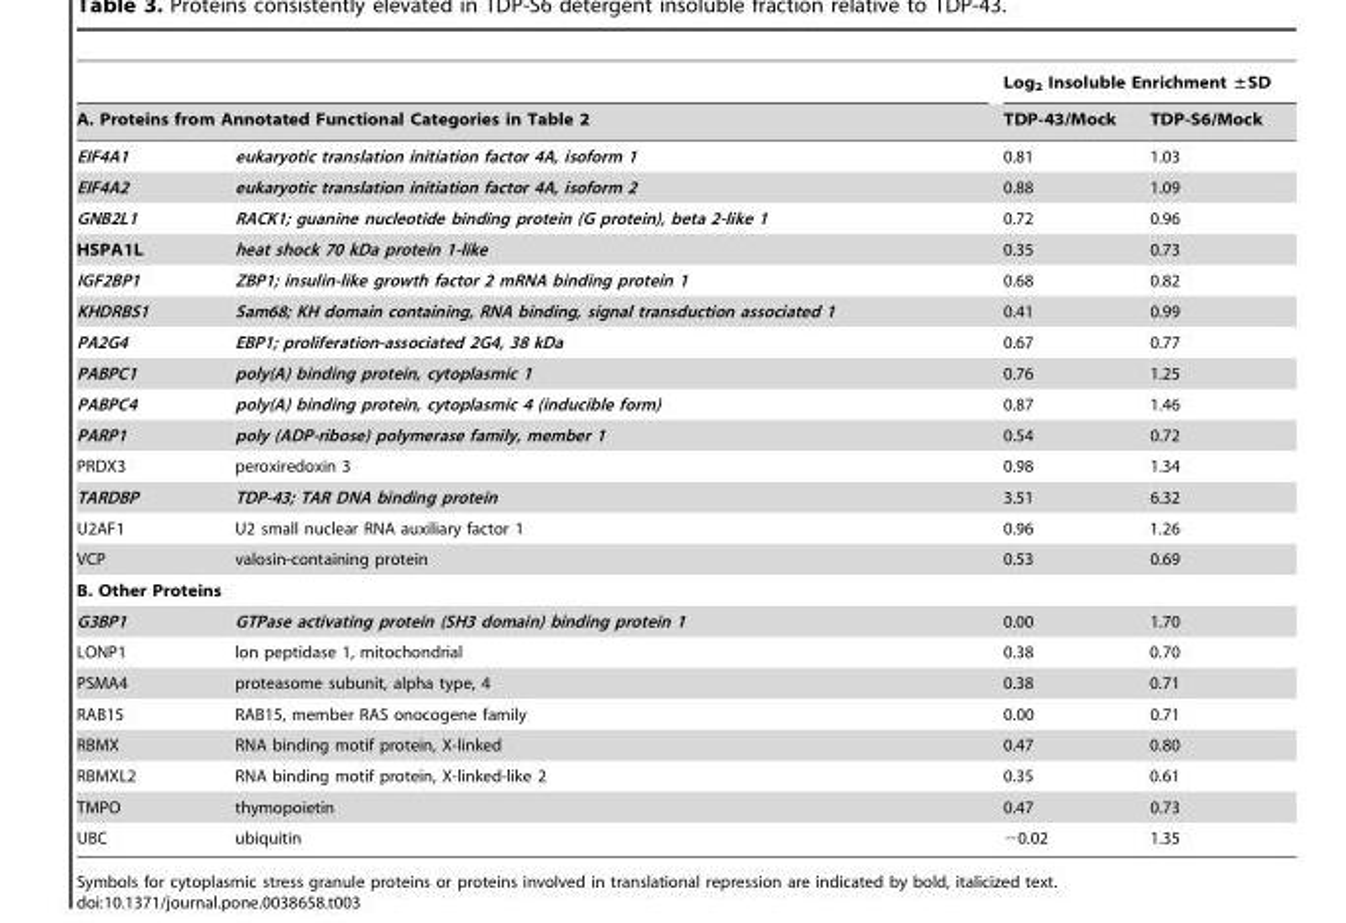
<table><thead><tr><td></td><td></td><td colspan="2">Log<sub>2</sub> Insoluble Enrichment ±SD</td></tr><tr><td colspan="2">A. Proteins from Annotated Functional Categories in Table 2</td><td>TDP-43/Mock</td><td>TDP-S6/Mock</td></tr></thead><tbody><tr><td>EIF4A1</td><td>eukaryotic translation initiation factor 4A, isoform 1</td><td>0.81</td><td>1.03</td></tr><tr><td>EIF4A2</td><td>eukaryotic translation initiation factor 4A, isoform 2</td><td>0.88</td><td>1.09</td></tr><tr><td>GNB2L1</td><td>RACK1; guanine nucleotide binding protein (G protein), beta 2-like 1</td><td>0.72</td><td>0.96</td></tr><tr><td>HSPA1L</td><td>heat shock 70 kDa protein 1-like</td><td>0.35</td><td>0.73</td></tr><tr><td>IGF2BP1</td><td>ZBP1; insulin-like growth factor 2 mRNA binding protein 1</td><td>0.68</td><td>0.82</td></tr><tr><td>KHDRBS1</td><td>Sam68; KH domain containing, RNA binding, signal transduction associated 1</td><td>0.41</td><td>0.99</td></tr><tr><td>PA2G4</td><td>EBP1; proliferation-associated 2G4, 38 kDa</td><td>0.67</td><td>0.77</td></tr><tr><td>PABPC1</td><td>poly(A) binding protein, cytoplasmic 1</td><td>0.76</td><td>1.25</td></tr><tr><td>PABPC4</td><td>poly(A) binding protein, cytoplasmic 4 (inducible form)</td><td>0.87</td><td>1.46</td></tr><tr><td>PARP1</td><td>poly (ADP-ribose) polymerase family, member 1</td><td>0.54</td><td>0.72</td></tr><tr><td>PRDX3</td><td>peroxiredoxin 3</td><td>0.98</td><td>1.34</td></tr><tr><td>TARDBP</td><td>TDP-43; TAR DNA binding protein</td><td>3.51</td><td>6.32</td></tr><tr><td>U2AF1</td><td>U2 small nuclear RNA auxiliary factor 1</td><td>0.96</td><td>1.26</td></tr><tr><td>VCP</td><td>valosin-containing protein</td><td>0.53</td><td>0.69</td></tr><tr><td colspan="4">B. Other Proteins</td></tr><tr><td>G3BP1</td><td>GTPase activating protein (SH3 domain) binding protein 1</td><td>0.00</td><td>1.70</td></tr><tr><td>LONP1</td><td>lon peptidase 1, mitochondrial</td><td>0.38</td><td>0.70</td></tr><tr><td>PSMA4</td><td>proteasome subunit, alpha type, 4</td><td>0.38</td><td>0.71</td></tr><tr><td>RAB15</td><td>RAB15, member RAS onocogene family</td><td>0.00</td><td>0.71</td></tr><tr><td>RBMX</td><td>RNA binding motif protein, X-linked</td><td>0.47</td><td>0.80</td></tr><tr><td>RBMXL2</td><td>RNA binding motif protein, X-linked-like 2</td><td>0.35</td><td>0.61</td></tr><tr><td>TMPO</td><td>thymopoietin</td><td>0.47</td><td>0.73</td></tr><tr><td>UBC</td><td>ubiquitin</td><td>−0.02</td><td>1.35</td></tr></tbody></table>